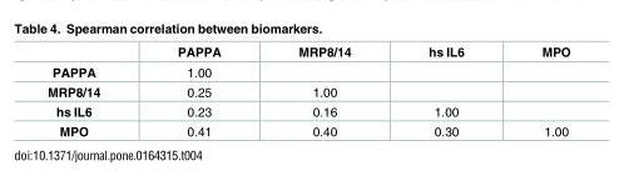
<table><thead><tr><td></td><td>PAPPA</td><td>MRP8/14</td><td>hs IL6</td><td>MPO</td></tr></thead><tbody><tr><td>PAPPA</td><td>1.00</td><td></td><td></td><td></td></tr><tr><td>MRP8/14</td><td>0.25</td><td>1.00</td><td></td><td></td></tr><tr><td>hs IL6</td><td>0.23</td><td>0.16</td><td>1.00</td><td></td></tr><tr><td>MPO</td><td>0.41</td><td>0.40</td><td>0.30</td><td>1.00</td></tr></tbody></table>